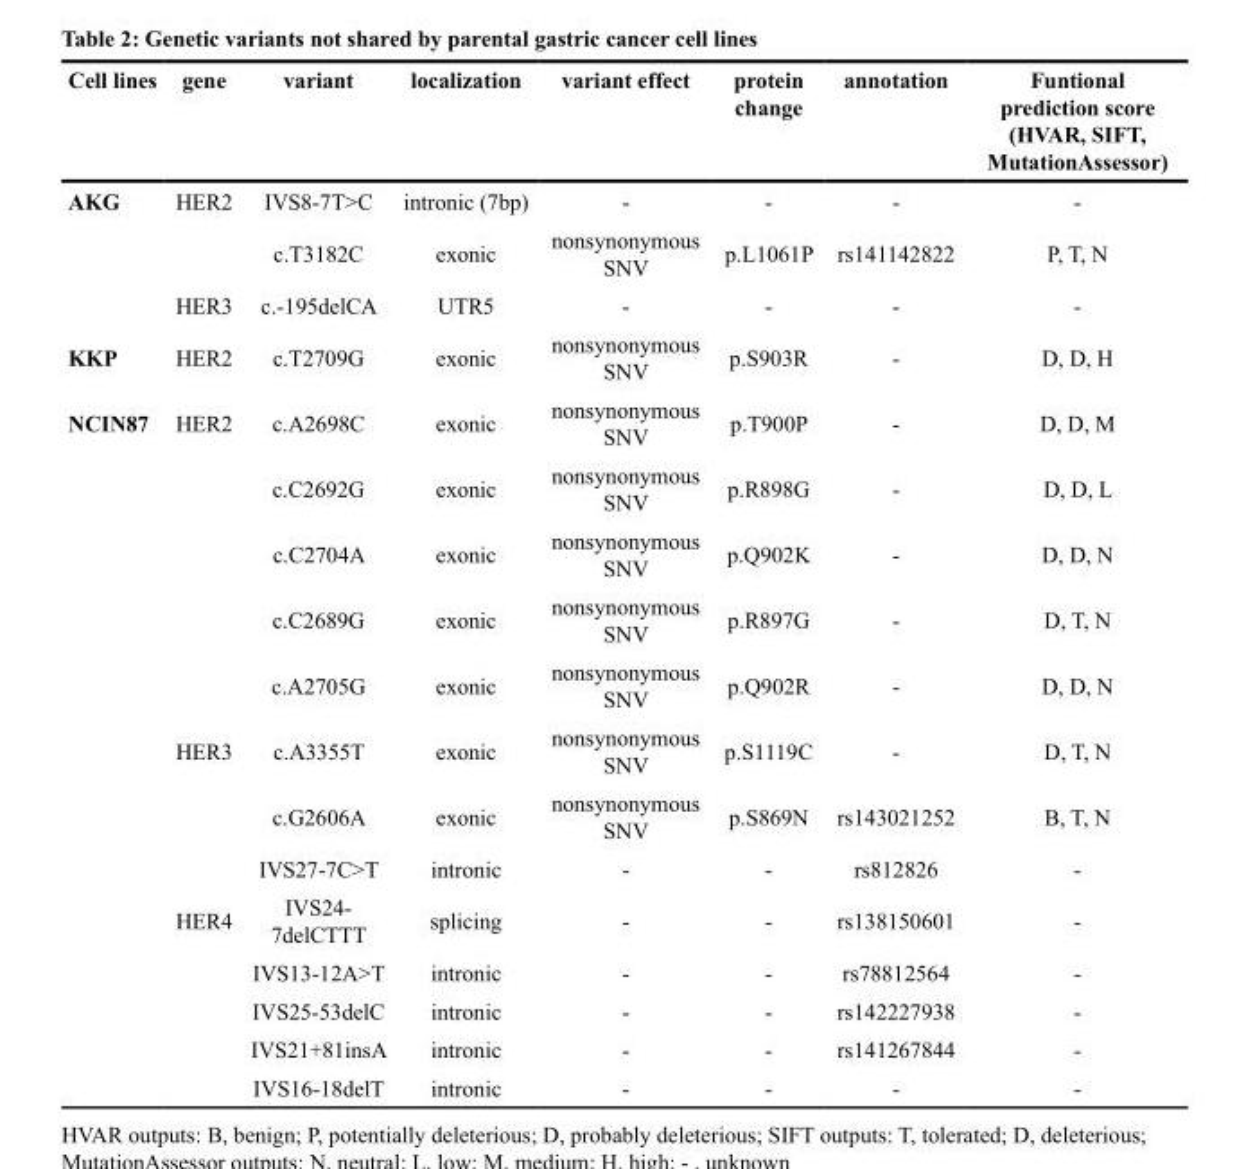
<table><thead><tr><td>Cell lines</td><td>gene</td><td>variant</td><td>localization</td><td>variant effect</td><td>protein change</td><td>annotation</td><td>Funtional prediction score (HVAR, SIFT, MutationAssessor)</td></tr></thead><tbody><tr><td rowspan="3">AKG</td><td>HER2</td><td>IVS8-7T&gt;C</td><td>intronic (7bp)</td><td>-</td><td>-</td><td>-</td><td>-</td></tr><tr><td></td><td>c.T3182C</td><td>exonic</td><td>nonsynonymous SNV</td><td>p.L1061P</td><td>rs141142822</td><td>P, T, N</td></tr><tr><td>HER3</td><td>c.-195delCA</td><td>UTR5</td><td>-</td><td>-</td><td>-</td><td>-</td></tr><tr><td>KKP</td><td>HER2</td><td>c.T2709G</td><td>exonic</td><td>nonsynonymous SNV</td><td>p.S903R</td><td>-</td><td>D, D, H</td></tr><tr><td rowspan="13">NCIN87</td><td>HER2</td><td>c.A2698C</td><td>exonic</td><td>nonsynonymous SNV</td><td>p.T900P</td><td>-</td><td>D, D, M</td></tr><tr><td></td><td>c.C2692G</td><td>exonic</td><td>nonsynonymous SNV</td><td>p.R898G</td><td>-</td><td>D, D, L</td></tr><tr><td></td><td>c.C2704A</td><td>exonic</td><td>nonsynonymous SNV</td><td>p.Q902K</td><td>-</td><td>D, D, N</td></tr><tr><td></td><td>c.C2689G</td><td>exonic</td><td>nonsynonymous SNV</td><td>p.R897G</td><td>-</td><td>D, T, N</td></tr><tr><td></td><td>c.A2705G</td><td>exonic</td><td>nonsynonymous SNV</td><td>p.Q902R</td><td>-</td><td>D, D, N</td></tr><tr><td>HER3</td><td>c.A3355T</td><td>exonic</td><td>nonsynonymous SNV</td><td>p.S1119C</td><td>-</td><td>D, T, N</td></tr><tr><td></td><td>c.G2606A</td><td>exonic</td><td>nonsynonymous SNV</td><td>p.S869N</td><td>rs143021252</td><td>B, T, N</td></tr><tr><td></td><td>IVS27-7C&gt;T</td><td>intronic</td><td>-</td><td>-</td><td>rs812826</td><td>-</td></tr><tr><td>HER4</td><td>IVS24- 7delCTTT</td><td>splicing</td><td>-</td><td>-</td><td>rs138150601</td><td>-</td></tr><tr><td></td><td>IVS13-12A&gt;T</td><td>intronic</td><td>-</td><td>-</td><td>rs78812564</td><td>-</td></tr><tr><td></td><td>IVS25-53delC</td><td>intronic</td><td>-</td><td>-</td><td>rs142227938</td><td>-</td></tr><tr><td></td><td>IVS21+81insA</td><td>intronic</td><td>-</td><td>-</td><td>rs141267844</td><td>-</td></tr><tr><td></td><td>IVS16-18delT</td><td>intronic</td><td>-</td><td>-</td><td>-</td><td>-</td></tr></tbody></table>